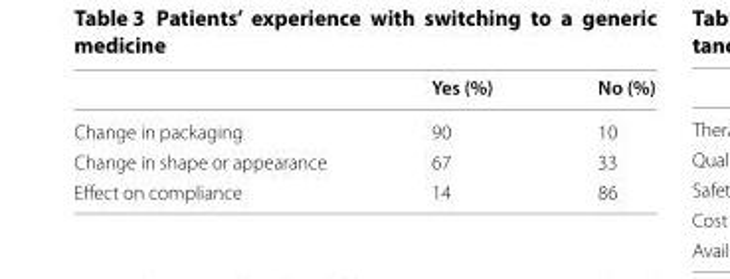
<table><thead><tr><td></td><td>Yes (%)</td><td>No (%)</td></tr></thead><tbody><tr><td>Change in packaging</td><td>90</td><td>10</td></tr><tr><td>Change in shape or appearance</td><td>67</td><td>33</td></tr><tr><td>Effect on compliance</td><td>14</td><td>86</td></tr></tbody></table>